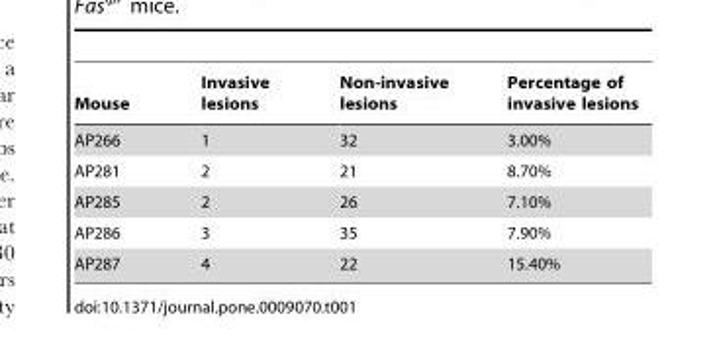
<table><thead><tr><td>Mouse</td><td>Invasive lesions</td><td>Non-invasive lesions</td><td>Percentage of invasive lesions</td></tr></thead><tbody><tr><td>AP266</td><td>1</td><td>32</td><td>3.00%</td></tr><tr><td>AP281</td><td>2</td><td>21</td><td>8.70%</td></tr><tr><td>AP285</td><td>2</td><td>26</td><td>7.10%</td></tr><tr><td>AP286</td><td>3</td><td>35</td><td>7.90%</td></tr><tr><td>AP287</td><td>4</td><td>22</td><td>15.40%</td></tr></tbody></table>